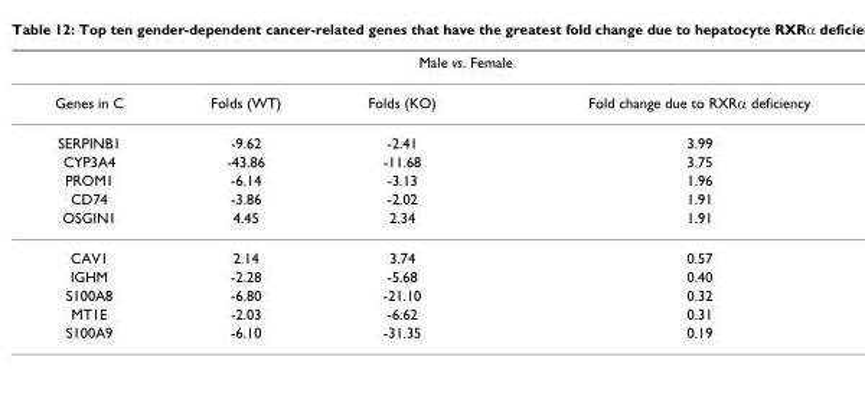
<table><thead><tr><td colspan="4">Male vs. Female</td></tr><tr><td>Genes in C</td><td>Folds (WT)</td><td>Folds (KO)</td><td>Fold change due to RXRα deficiency</td></tr></thead><tbody><tr><td>SERPINB1</td><td>-9.62</td><td>-2.41</td><td>3.99</td></tr><tr><td>CYP3A4</td><td>-43.86</td><td>-11.68</td><td>3.75</td></tr><tr><td>PROM1</td><td>-6.14</td><td>-3.13</td><td>1.96</td></tr><tr><td>CD74</td><td>-3.86</td><td>-2.02</td><td>1.91</td></tr><tr><td>OSGIN1</td><td>4.45</td><td>2.34</td><td>1.91</td></tr><tr><td>CAV1</td><td>2.14</td><td>3.74</td><td>0.57</td></tr><tr><td>IGHM</td><td>-2.28</td><td>-5.68</td><td>0.40</td></tr><tr><td>S100A8</td><td>-6.80</td><td>-21.10</td><td>0.32</td></tr><tr><td>MT1E</td><td>-2.03</td><td>-6.62</td><td>0.31</td></tr><tr><td>S100A9</td><td>-6.10</td><td>-31.35</td><td>0.19</td></tr></tbody></table>